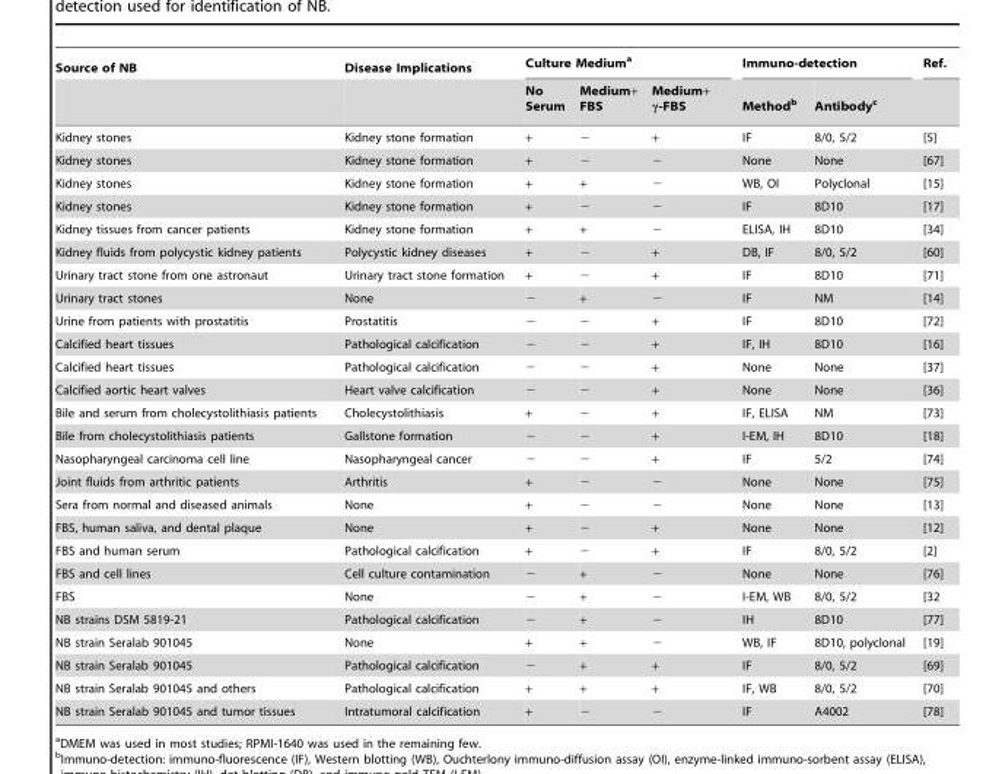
<table><thead><tr><td rowspan="2">Source of NB</td><td rowspan="2">Disease Implications</td><td colspan="3">Culture Medium<sup>a</sup></td><td colspan="2">Immuno-detection</td><td rowspan="2">Ref.</td></tr><tr><td>No Serum</td><td>Medium+ FBS</td><td>Medium+ γ-FBS</td><td>Method<sup>b</sup></td><td>Antibody<sup>c</sup></td></tr></thead><tbody><tr><td>Kidney stones</td><td>Kidney stone formation</td><td>+</td><td>−</td><td>+</td><td>IF</td><td>8/0, 5/2</td><td>[5]</td></tr><tr><td>Kidney stones</td><td>Kidney stone formation</td><td>+</td><td>−</td><td>−</td><td>None</td><td>None</td><td>[67]</td></tr><tr><td>Kidney stones</td><td>Kidney stone formation</td><td>+</td><td>+</td><td>−</td><td>WB, OI</td><td>Polyclonal</td><td>[15]</td></tr><tr><td>Kidney stones</td><td>Kidney stone formation</td><td>+</td><td>−</td><td>−</td><td>IF</td><td>8D10</td><td>[17]</td></tr><tr><td>Kidney tissues from cancer patients</td><td>Kidney stone formation</td><td>+</td><td>+</td><td>−</td><td>ELISA, IH</td><td>8D10</td><td>[34]</td></tr><tr><td>Kidney fluids from polycystic kidney patients</td><td>Polycystic kidney diseases</td><td>+</td><td>−</td><td>+</td><td>DB, IF</td><td>8/0, 5/2</td><td>[60]</td></tr><tr><td>Urinary tract stone from one astronaut</td><td>Urinary tract stone formation</td><td>+</td><td>−</td><td>+</td><td>IF</td><td>8D10</td><td>[71]</td></tr><tr><td>Urinary tract stones</td><td>None</td><td>−</td><td>+</td><td>−</td><td>IF</td><td>NM</td><td>[14]</td></tr><tr><td>Urine from patients with prostatitis</td><td>Prostatitis</td><td>−</td><td>−</td><td>+</td><td>IF</td><td>8D10</td><td>[72]</td></tr><tr><td>Calcified heart tissues</td><td>Pathological calcification</td><td>−</td><td>−</td><td>+</td><td>IF, IH</td><td>8D10</td><td>[16]</td></tr><tr><td>Calcified heart tissues</td><td>Pathological calcification</td><td>−</td><td>−</td><td>+</td><td>None</td><td>None</td><td>[37]</td></tr><tr><td>Calcified aortic heart valves</td><td>Heart valve calcification</td><td>−</td><td>−</td><td>+</td><td>None</td><td>None</td><td>[36]</td></tr><tr><td>Bile and serum from cholecystolithiasis patients</td><td>Cholecystolithiasis</td><td>+</td><td>−</td><td>+</td><td>IF, ELISA</td><td>NM</td><td>[73]</td></tr><tr><td>Bile from cholecystolithiasis patients</td><td>Gallstone formation</td><td>−</td><td>−</td><td>+</td><td>I-EM, IH</td><td>8D10</td><td>[18]</td></tr><tr><td>Nasopharyngeal carcinoma cell line</td><td>Nasopharyngeal cancer</td><td>−</td><td>−</td><td>+</td><td>IF</td><td>5/2</td><td>[74]</td></tr><tr><td>Joint fluids from arthritic patients</td><td>Arthritis</td><td>+</td><td>−</td><td>−</td><td>None</td><td>None</td><td>[75]</td></tr><tr><td>Sera from normal and diseased animals</td><td>None</td><td>+</td><td>−</td><td>−</td><td>None</td><td>None</td><td>[13]</td></tr><tr><td>FBS, human saliva, and dental plaque</td><td>None</td><td>+</td><td>−</td><td>+</td><td>None</td><td>None</td><td>[12]</td></tr><tr><td>FBS and human serum</td><td>Pathological calcification</td><td>+</td><td>−</td><td>+</td><td>IF</td><td>8/0, 5/2</td><td>[2]</td></tr><tr><td>FBS and cell lines</td><td>Cell culture contamination</td><td>−</td><td>+</td><td>−</td><td>None</td><td>None</td><td>[76]</td></tr><tr><td>FBS</td><td>None</td><td>−</td><td>+</td><td>−</td><td>I-EM, WB</td><td>8/0, 5/2</td><td>[32</td></tr><tr><td>NB strains DSM 5819-21</td><td>Pathological calcification</td><td>−</td><td>+</td><td>−</td><td>IH</td><td>8D10</td><td>[77]</td></tr><tr><td>NB strain Seralab 901045</td><td>None</td><td>+</td><td>+</td><td>−</td><td>WB, IF</td><td>8D10, polyclonal</td><td>[19]</td></tr><tr><td>NB strain Seralab 901045</td><td>Pathological calcification</td><td>−</td><td>+</td><td>+</td><td>IF</td><td>8/0, 5/2</td><td>[69]</td></tr><tr><td>NB strain Seralab 901045 and others</td><td>Pathological calcification</td><td>+</td><td>+</td><td>+</td><td>IF, WB</td><td>8/0, 5/2</td><td>[70]</td></tr><tr><td>NB strain Seralab 901045 and tumor tissues</td><td>Intratumoral calcification</td><td>+</td><td>−</td><td>−</td><td>IF</td><td>A4002</td><td>[78]</td></tr></tbody></table>